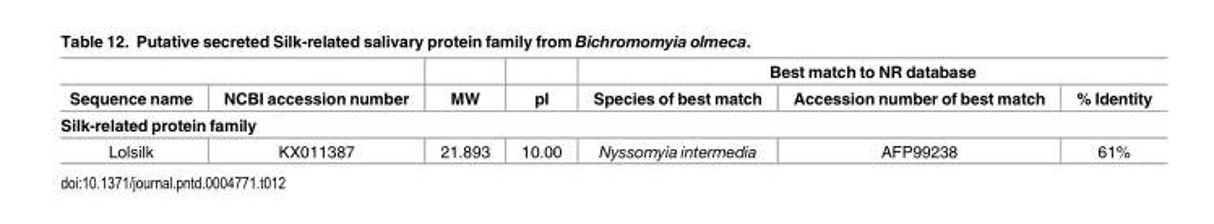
<table><thead><tr><td rowspan="2">Sequence name</td><td rowspan="2">NCBI accession number</td><td rowspan="2">MW</td><td rowspan="2">pI</td><td colspan="3">Best match to NR database</td></tr><tr><td>Species of best match</td><td>Accession number of best match</td><td>% Identity</td></tr><tr><td colspan="7">Silk-related protein family</td></tr></thead><tbody><tr><td>Lolsilk</td><td>KX011387</td><td>21.893</td><td>10.00</td><td>Nyssomyia intermedia</td><td>AFP99238</td><td>61%</td></tr></tbody></table>